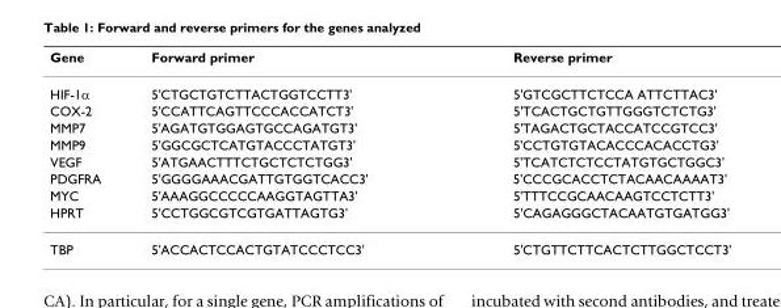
<table><thead><tr><td>Gene</td><td>Forward primer</td><td>Reverse primer</td></tr></thead><tbody><tr><td>HIF-1α</td><td>5&#x27;CTGCTGTCTTACTGGTCCTT3&#x27;</td><td>5&#x27;GTCGCTTCTCCA ATTCTTAC3&#x27;</td></tr><tr><td>COX-2</td><td>5&#x27;CCATTCAGTTCCCACCATCT3&#x27;</td><td>5&#x27;TCACTGCTGTTGGGTCTCTG3&#x27;</td></tr><tr><td>MMP7</td><td>5&#x27;AGATGTGGAGTGCCAGATGT3&#x27;</td><td>5&#x27;TAGACTGCTACCATCCGTCC3&#x27;</td></tr><tr><td>MMP9</td><td>5&#x27;GGCGCTCATGTACCCTATGT3&#x27;</td><td>5&#x27;CCTGTGTACACCCACACCTG3&#x27;</td></tr><tr><td>VEGF</td><td>5&#x27;ATGAACTTTCTGCTCTCTGG3&#x27;</td><td>5&#x27;TCATCTCTCCTATGTGCTGGC3&#x27;</td></tr><tr><td>PDGFRA</td><td>5&#x27;GGGGAAACGATTGTGGTCACC3&#x27;</td><td>5&#x27;CCCGCACCTCTACAACAAAAT3&#x27;</td></tr><tr><td>MYC</td><td>5&#x27;AAAGGCCCCCAAGGTAGTTA3&#x27;</td><td>5&#x27;TTTCCGCAACAAGTCCTCTT3&#x27;</td></tr><tr><td>HPRT</td><td>5&#x27;CCTGGCGTCGTGATTAGTG3&#x27;</td><td>5&#x27;CAGAGGGCTACAATGTGATGG3&#x27;</td></tr><tr><td>TBP</td><td>5&#x27;ACCACTCCACTGTATCCCTCC3&#x27;</td><td>5&#x27;CTGTTCTTCACTCTTGGCTCCT3&#x27;</td></tr></tbody></table>